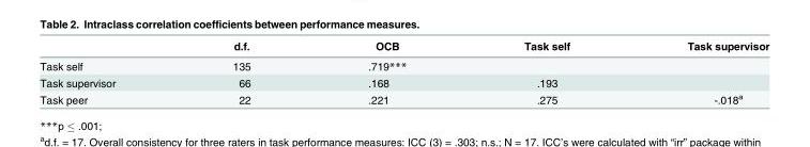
<table><thead><tr><td></td><td>d.f.</td><td>OCB</td><td>Task self</td><td>Task supervisor</td></tr></thead><tbody><tr><td>Task self</td><td>135</td><td>.719***</td><td></td><td></td></tr><tr><td>Task supervisor</td><td>66</td><td>.168</td><td>.193</td><td></td></tr><tr><td>Task peer</td><td>22</td><td>.221</td><td>.275</td><td>-.018<sup>a</sup></td></tr></tbody></table>